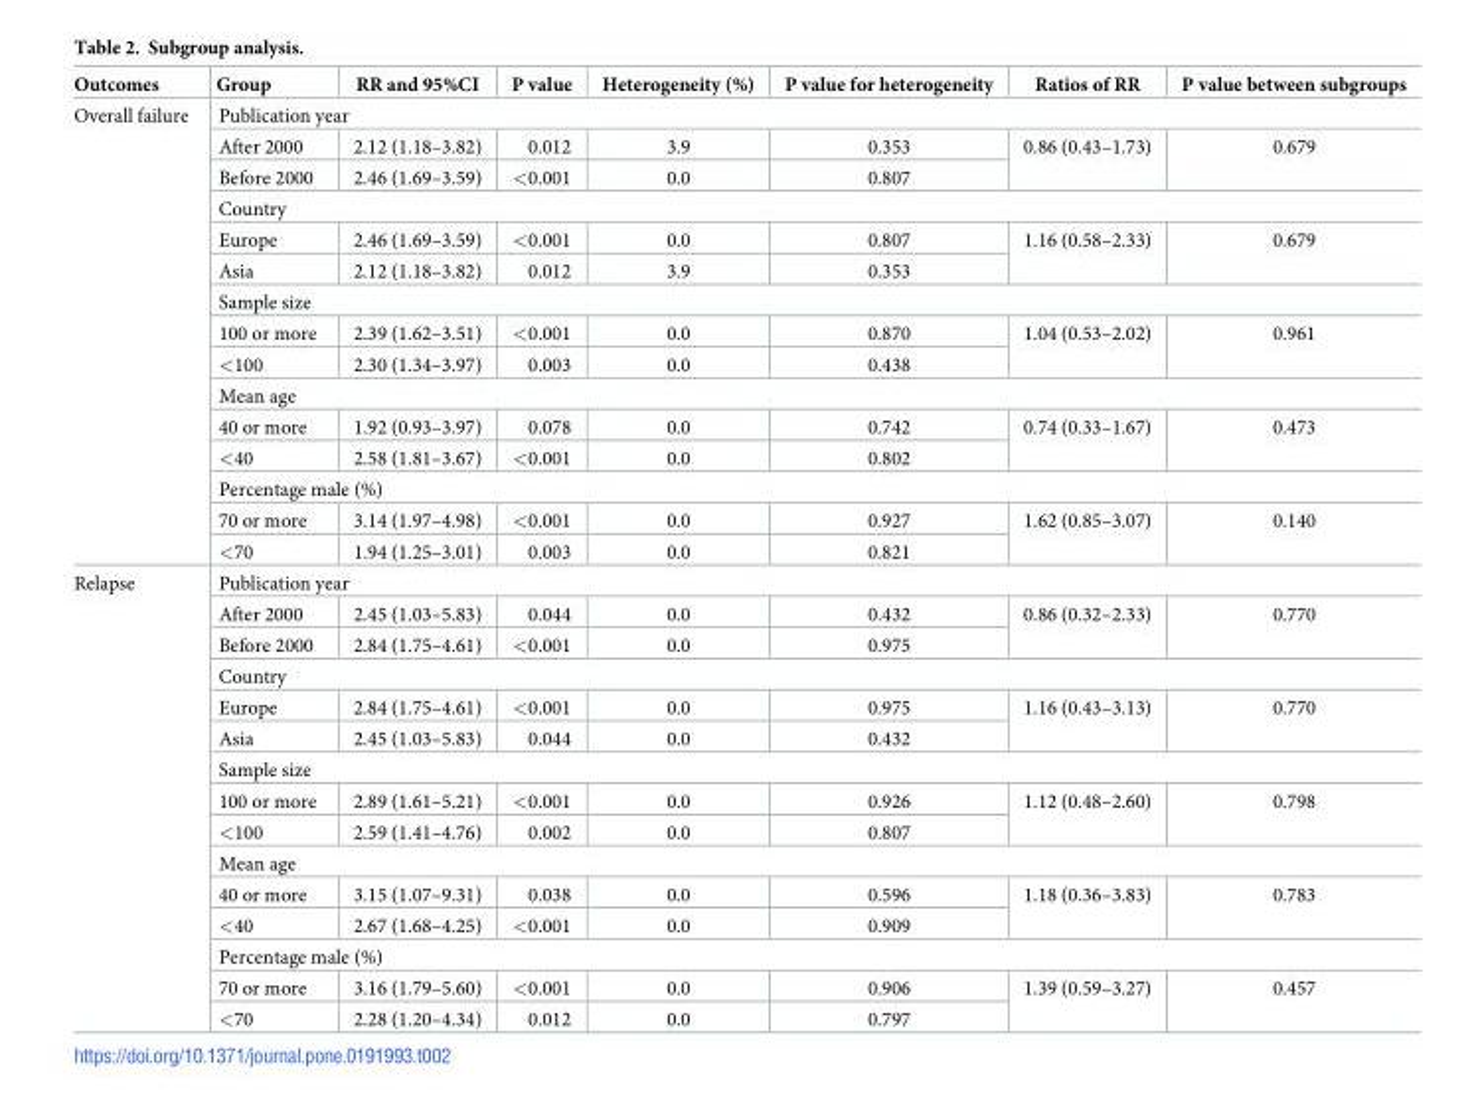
<table><thead><tr><td>Outcomes</td><td>Group</td><td>RR and 95%CI</td><td>P value</td><td>Heterogeneity (%)</td><td>P value for heterogeneity</td><td>Ratios of RR</td><td>P value between subgroups</td></tr></thead><tbody><tr><td rowspan="15">Overall failure</td><td colspan="7">Publication year</td></tr><tr><td>After 2000</td><td>2.12 (1.18–3.82)</td><td>0.012</td><td>3.9</td><td>0.353</td><td rowspan="2">0.86 (0.43–1.73)</td><td rowspan="2">0.679</td></tr><tr><td>Before 2000</td><td>2.46 (1.69–3.59)</td><td>&lt;0.001</td><td>0.0</td><td>0.807</td></tr><tr><td colspan="7">Country</td></tr><tr><td>Europe</td><td>2.46 (1.69–3.59)</td><td>&lt;0.001</td><td>0.0</td><td>0.807</td><td rowspan="2">1.16 (0.58–2.33)</td><td rowspan="2">0.679</td></tr><tr><td>Asia</td><td>2.12 (1.18–3.82)</td><td>0.012</td><td>3.9</td><td>0.353</td></tr><tr><td colspan="7">Sample size</td></tr><tr><td>100 or more</td><td>2.39 (1.62–3.51)</td><td>&lt;0.001</td><td>0.0</td><td>0.870</td><td rowspan="2">1.04 (0.53–2.02)</td><td rowspan="2">0.961</td></tr><tr><td>&lt;100</td><td>2.30 (1.34–3.97)</td><td>0.003</td><td>0.0</td><td>0.438</td></tr><tr><td colspan="7">Mean age</td></tr><tr><td>40 or more</td><td>1.92 (0.93–3.97)</td><td>0.078</td><td>0.0</td><td>0.742</td><td rowspan="2">0.74 (0.33–1.67)</td><td rowspan="2">0.473</td></tr><tr><td>&lt;40</td><td>2.58 (1.81–3.67)</td><td>&lt;0.001</td><td>0.0</td><td>0.802</td></tr><tr><td colspan="7">Percentage male (%)</td></tr><tr><td>70 or more</td><td>3.14 (1.97–4.98)</td><td>&lt;0.001</td><td>0.0</td><td>0.927</td><td rowspan="2">1.62 (0.85–3.07)</td><td rowspan="2">0.140</td></tr><tr><td>&lt;70</td><td>1.94 (1.25–3.01)</td><td>0.003</td><td>0.0</td><td>0.821</td></tr><tr><td rowspan="15">Relapse</td><td colspan="7">Publication year</td></tr><tr><td>After 2000</td><td>2.45 (1.03–5.83)</td><td>0.044</td><td>0.0</td><td>0.432</td><td rowspan="2">0.86 (0.32–2.33)</td><td rowspan="2">0.770</td></tr><tr><td>Before 2000</td><td>2.84 (1.75–4.61)</td><td>&lt;0.001</td><td>0.0</td><td>0.975</td></tr><tr><td colspan="7">Country</td></tr><tr><td>Europe</td><td>2.84 (1.75–4.61)</td><td>&lt;0.001</td><td>0.0</td><td>0.975</td><td rowspan="2">1.16 (0.43–3.13)</td><td rowspan="2">0.770</td></tr><tr><td>Asia</td><td>2.45 (1.03–5.83)</td><td>0.044</td><td>0.0</td><td>0.432</td></tr><tr><td colspan="7">Sample size</td></tr><tr><td>100 or more</td><td>2.89 (1.61–5.21)</td><td>&lt;0.001</td><td>0.0</td><td>0.926</td><td rowspan="2">1.12 (0.48–2.60)</td><td rowspan="2">0.798</td></tr><tr><td>&lt;100</td><td>2.59 (1.41–4.76)</td><td>0.002</td><td>0.0</td><td>0.807</td></tr><tr><td colspan="7">Mean age</td></tr><tr><td>40 or more</td><td>3.15 (1.07–9.31)</td><td>0.038</td><td>0.0</td><td>0.596</td><td rowspan="2">1.18 (0.36–3.83)</td><td rowspan="2">0.783</td></tr><tr><td>&lt;40</td><td>2.67 (1.68–4.25)</td><td>&lt;0.001</td><td>0.0</td><td>0.909</td></tr><tr><td colspan="7">Percentage male (%)</td></tr><tr><td>70 or more</td><td>3.16 (1.79–5.60)</td><td>&lt;0.001</td><td>0.0</td><td>0.906</td><td rowspan="2">1.39 (0.59–3.27)</td><td rowspan="2">0.457</td></tr><tr><td>&lt;70</td><td>2.28 (1.20–4.34)</td><td>0.012</td><td>0.0</td><td>0.797</td></tr></tbody></table>